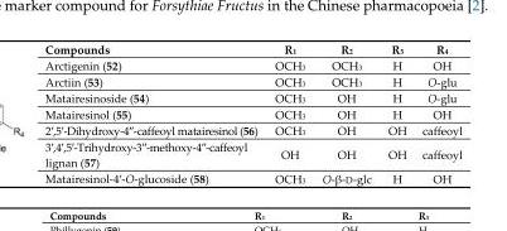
<table><tbody><tr><td>Compounds</td><td>R<sub>1</sub></td><td>R<sub>2</sub></td><td>R<sub>3</sub></td><td>R<sub>4</sub></td></tr><tr><td>Arctigenin (52)</td><td>OCH<sub>3</sub></td><td>OCH<sub>3</sub></td><td>H</td><td>OH</td></tr><tr><td>Arctiin (53)</td><td>OCH<sub>3</sub></td><td>OCH<sub>3</sub></td><td>H</td><td>O-glu</td></tr><tr><td>Matairesinoside (54)</td><td>OCH<sub>3</sub></td><td>OH</td><td>H</td><td>O-glu</td></tr><tr><td>Matairesinol (55)</td><td>OCH<sub>3</sub></td><td>OH</td><td>H</td><td>OH</td></tr><tr><td>2′,5′-Dihydroxy-4′′-caffeoyl matairesinol (56)</td><td>OCH<sub>3</sub></td><td>OH</td><td>OH</td><td>caffeoyl</td></tr><tr><td>3′,4′,5′-Trihydroxy-3′′-methoxy-4′′-caffeoyl lignan (57)</td><td>OH</td><td>OH</td><td>OH</td><td>caffeoyl</td></tr><tr><td>Matairesinol-4′-O-glucoside (58)</td><td>OCH<sub>3</sub></td><td>O-β-D-glc</td><td>H</td><td>OH</td></tr></tbody></table>